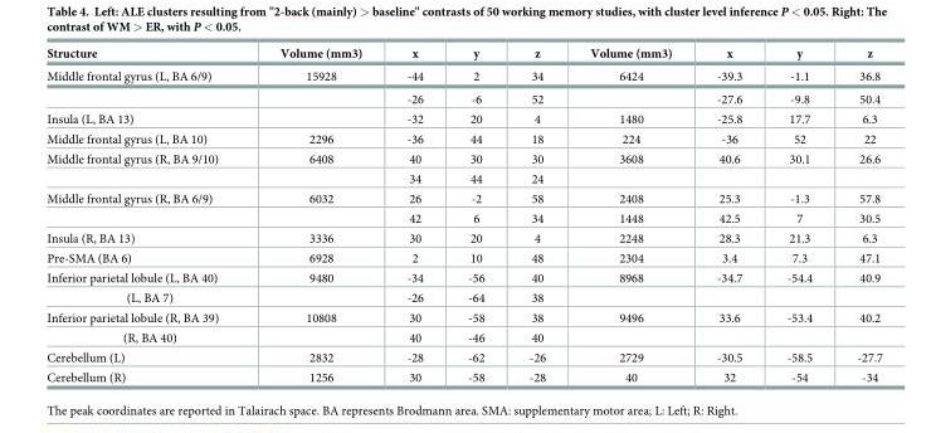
<table><thead><tr><td>Structure</td><td>Volume (mm3)</td><td>x</td><td>y</td><td>z</td><td>Volume (mm3)</td><td>x</td><td>y</td><td>z</td></tr></thead><tbody><tr><td rowspan="2">Middle frontal gyrus (L, BA 6/9)</td><td>15928</td><td>-44</td><td>2</td><td>34</td><td>6424</td><td>-39.3</td><td>-1.1</td><td>36.8</td></tr><tr><td></td><td>-26</td><td>-6</td><td>52</td><td></td><td>-27.6</td><td>-9.8</td><td>50.4</td></tr><tr><td>Insula (L, BA 13)</td><td></td><td>-32</td><td>20</td><td>4</td><td>1480</td><td>-25.8</td><td>17.7</td><td>6.3</td></tr><tr><td>Middle frontal gyrus (L, BA 10)</td><td>2296</td><td>-36</td><td>44</td><td>18</td><td>224</td><td>-36</td><td>52</td><td>22</td></tr><tr><td rowspan="2">Middle frontal gyrus (R, BA 9/10)</td><td>6408</td><td>40</td><td>30</td><td>30</td><td>3608</td><td>40.6</td><td>30.1</td><td>26.6</td></tr><tr><td></td><td>34</td><td>44</td><td>24</td><td></td><td></td><td></td><td></td></tr><tr><td rowspan="2">Middle frontal gyrus (R, BA 6/9)</td><td>6032</td><td>26</td><td>-2</td><td>58</td><td>2408</td><td>25.3</td><td>-1.3</td><td>57.8</td></tr><tr><td></td><td>42</td><td>6</td><td>34</td><td>1448</td><td>42.5</td><td>7</td><td>30.5</td></tr><tr><td>Insula (R, BA 13)</td><td>3336</td><td>30</td><td>20</td><td>4</td><td>2248</td><td>28.3</td><td>21.3</td><td>6.3</td></tr><tr><td>Pre-SMA (BA 6)</td><td>6928</td><td>2</td><td>10</td><td>48</td><td>2304</td><td>3.4</td><td>7.3</td><td>47.1</td></tr><tr><td>Inferior parietal lobule (L, BA 40)</td><td>9480</td><td>-34</td><td>-56</td><td>40</td><td>8968</td><td>-34.7</td><td>-54.4</td><td>40.9</td></tr><tr><td>(L, BA 7)</td><td></td><td>-26</td><td>-64</td><td>38</td><td></td><td></td><td></td><td></td></tr><tr><td>Inferior parietal lobule (R, BA 39)</td><td>10808</td><td>30</td><td>-58</td><td>38</td><td>9496</td><td>33.6</td><td>-53.4</td><td>40.2</td></tr><tr><td>(R, BA 40)</td><td></td><td>40</td><td>-46</td><td>40</td><td></td><td></td><td></td><td></td></tr><tr><td>Cerebellum (L)</td><td>2832</td><td>-28</td><td>-62</td><td>-26</td><td>2729</td><td>-30.5</td><td>-58.5</td><td>-27.7</td></tr><tr><td>Cerebellum (R)</td><td>1256</td><td>30</td><td>-58</td><td>-28</td><td>40</td><td>32</td><td>-54</td><td>-34</td></tr></tbody></table>